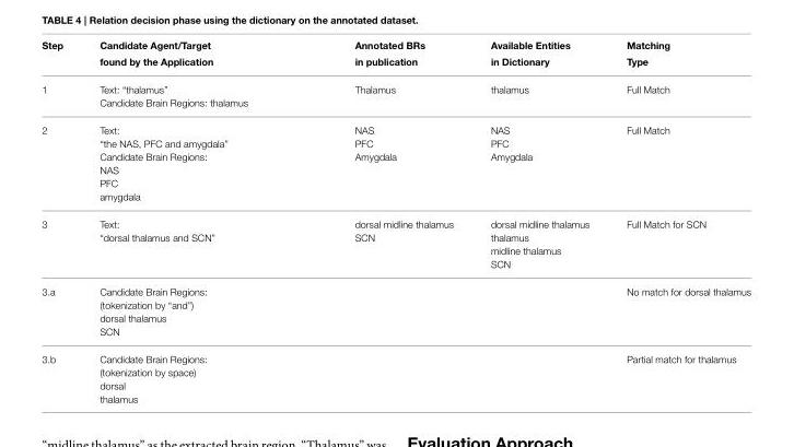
<table><thead><tr><td>Step</td><td>Candidate Agent/Target found by the Application</td><td>Annotated BRs in publication</td><td>Available Entities in Dictionary</td><td>Matching Type</td></tr></thead><tbody><tr><td>1</td><td>Text: “thalamus” Candidate Brain Regions: thalamus</td><td>Thalamus</td><td>thalamus</td><td>Full Match</td></tr><tr><td>2</td><td>Text: “the NAS, PFC and amygdala” Candidate Brain Regions: NAS PFC amygdala</td><td>NAS PFC Amygdala</td><td>NAS PFC Amygdala</td><td>Full Match</td></tr><tr><td>3</td><td>Text: “dorsal thalamus and SCN”</td><td>dorsal midline thalamus SCN</td><td>dorsal midline thalamus thalamus midline thalamus SCN</td><td>Full Match for SCN</td></tr><tr><td>3.a</td><td>Candidate Brain Regions: (tokenization by “and”) dorsal thalamus SCN</td><td></td><td></td><td>No match for dorsal thalamus</td></tr><tr><td>3.b</td><td>Candidate Brain Regions: (tokenization by space) dorsal thalamus</td><td></td><td></td><td>Partial match for thalamus</td></tr></tbody></table>